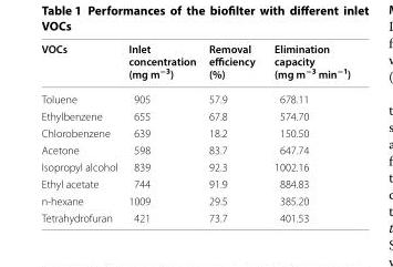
<table><thead><tr><td>VOCs</td><td>Inlet concentration (mg m<sup>−3</sup>)</td><td>Removal efficiency (%)</td><td>Elimination capacity (mg m<sup>−3</sup> min<sup>−1</sup>)</td></tr></thead><tbody><tr><td>Toluene</td><td>905</td><td>57.9</td><td>678.11</td></tr><tr><td>Ethylbenzene</td><td>655</td><td>67.8</td><td>574.70</td></tr><tr><td>Chlorobenzene</td><td>639</td><td>18.2</td><td>150.50</td></tr><tr><td>Acetone</td><td>598</td><td>83.7</td><td>647.74</td></tr><tr><td>Isopropyl alcohol</td><td>839</td><td>92.3</td><td>1002.16</td></tr><tr><td>Ethyl acetate</td><td>744</td><td>91.9</td><td>884.83</td></tr><tr><td>n‑hexane</td><td>1009</td><td>29.5</td><td>385.20</td></tr><tr><td>Tetrahydrofuran</td><td>421</td><td>73.7</td><td>401.53</td></tr></tbody></table>